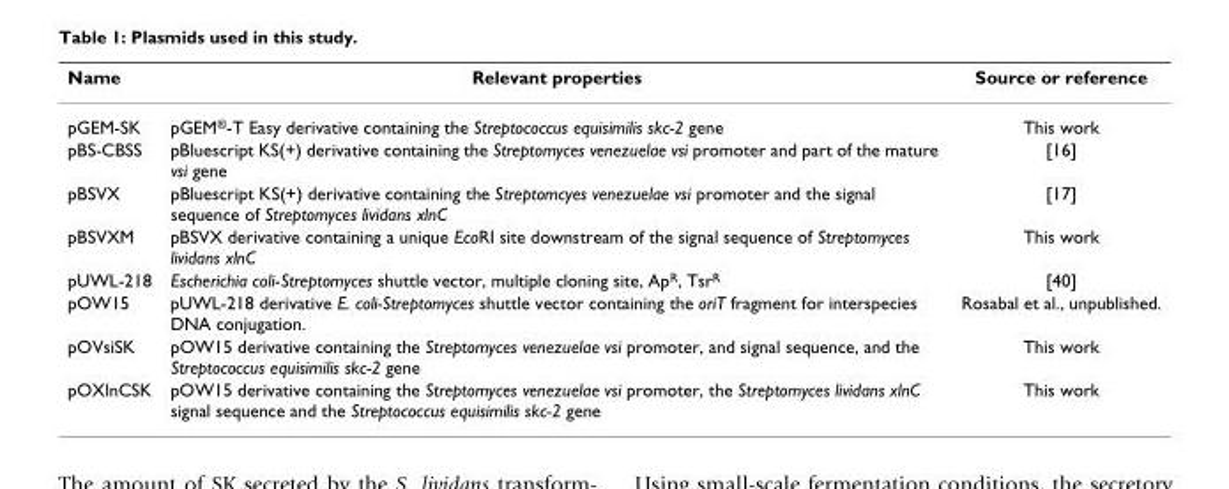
<table><thead><tr><td>Name</td><td>Relevant properties</td><td>Source or reference</td></tr></thead><tbody><tr><td>pGEM-SK</td><td>pGEM<sup>®</sup>-T Easy derivative containing the Streptococcus equisimilis skc-2 gene</td><td>This work</td></tr><tr><td>pBS-CBSS</td><td>pBluescript KS(+) derivative containing the Streptomyces venezuelae vsi promoter and part of the mature vsi gene</td><td>[16]</td></tr><tr><td>pBSVX</td><td>pBluescript KS(+) derivative containing the Streptomcyes venezuelae vsi promoter and the signal sequence of Streptomyces lividans xlnC</td><td>[17]</td></tr><tr><td>pBSVXM</td><td>pBSVX derivative containing a unique EcoRI site downstream of the signal sequence of Streptomyces lividans xlnC</td><td>This work</td></tr><tr><td>pUWL-218</td><td>Escherichia coli-Streptomyces shuttle vector, multiple cloning site, Ap<sup>R</sup>, Tsr<sup>R</sup></td><td>[40]</td></tr><tr><td>pOW15</td><td>pUWL-218 derivative E. coli-Streptomyces shuttle vector containing the oriT fragment for interspecies DNA conjugation.</td><td>Rosabal et al., unpublished.</td></tr><tr><td>pOVsiSK</td><td>pOW15 derivative containing the Streptomyces venezuelae vsi promoter, and signal sequence, and the Streptococcus equisimilis skc-2 gene</td><td>This work</td></tr><tr><td>pOXlnCSK</td><td>pOW15 derivative containing the Streptomyces venezuelae vsi promoter, the Streptomyces lividans xlnC signal sequence and the Streptococcus equisimilis skc-2 gene</td><td>This work</td></tr></tbody></table>